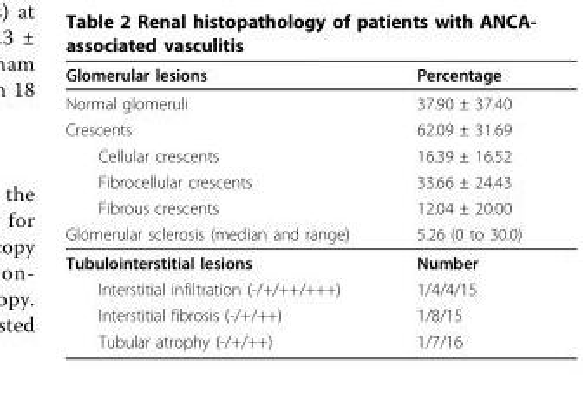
<table><thead><tr><td>Glomerular lesions</td><td>Percentage</td></tr></thead><tbody><tr><td>Normal glomeruli</td><td>37.90 ± 37.40</td></tr><tr><td>Crescents</td><td>62.09 ± 31.69</td></tr><tr><td>Cellular crescents</td><td>16.39 ± 16.52</td></tr><tr><td>Fibrocellular crescents</td><td>33.66 ± 24.43</td></tr><tr><td>Fibrous crescents</td><td>12.04 ± 20.00</td></tr><tr><td>Glomerular sclerosis (median and range)</td><td>5.26 (0 to 30.0)</td></tr><tr><td>Tubulointerstitial lesions</td><td>Number</td></tr><tr><td>Interstitial infiltration (-/+/++/+++)</td><td>1/4/4/15</td></tr><tr><td>Interstitial fibrosis (-/+/++)</td><td>1/8/15</td></tr><tr><td>Tubular atrophy (-/+/++)</td><td>1/7/16</td></tr></tbody></table>